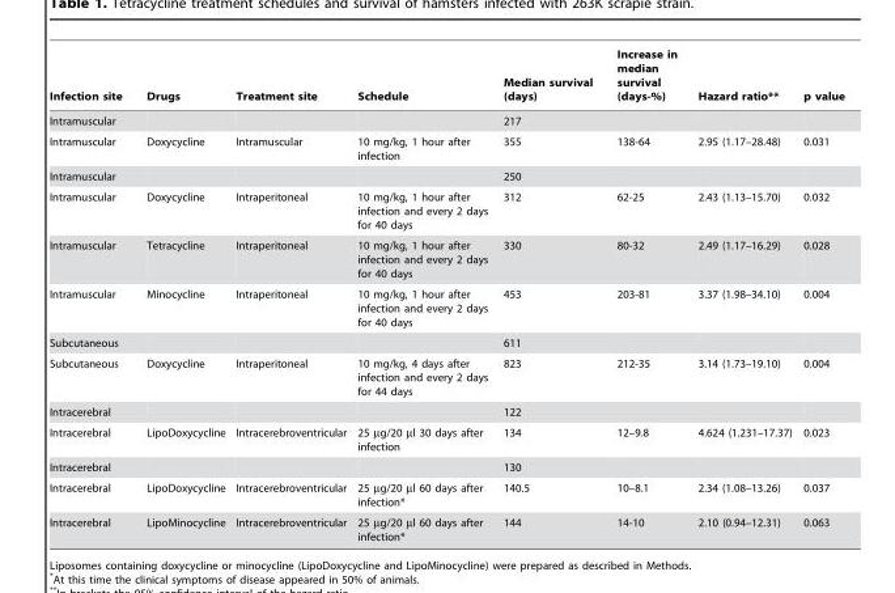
<table><thead><tr><td>Infection site</td><td>Drugs</td><td>Treatment site</td><td>Schedule</td><td>Median survival (days)</td><td>Increase in median survival (days-%)</td><td>Hazard ratio**</td><td>p value</td></tr></thead><tbody><tr><td>Intramuscular</td><td></td><td></td><td></td><td>217</td><td></td><td></td><td></td></tr><tr><td>Intramuscular</td><td>Doxycycline</td><td>Intramuscular</td><td>10 mg/kg, 1 hour after infection</td><td>355</td><td>138-64</td><td>2.95 (1.17–28.48)</td><td>0.031</td></tr><tr><td>Intramuscular</td><td></td><td></td><td></td><td>250</td><td></td><td></td><td></td></tr><tr><td>Intramuscular</td><td>Doxycycline</td><td>Intraperitoneal</td><td>10 mg/kg, 1 hour after infection and every 2 days for 40 days</td><td>312</td><td>62-25</td><td>2.43 (1.13–15.70)</td><td>0.032</td></tr><tr><td>Intramuscular</td><td>Tetracycline</td><td>Intraperitoneal</td><td>10 mg/kg, 1 hour after infection and every 2 days for 40 days</td><td>330</td><td>80-32</td><td>2.49 (1.17–16.29)</td><td>0.028</td></tr><tr><td>Intramuscular</td><td>Minocycline</td><td>Intraperitoneal</td><td>10 mg/kg, 1 hour after infection and every 2 days for 40 days</td><td>453</td><td>203-81</td><td>3.37 (1.98–34.10)</td><td>0.004</td></tr><tr><td>Subcutaneous</td><td></td><td></td><td></td><td>611</td><td></td><td></td><td></td></tr><tr><td>Subcutaneous</td><td>Doxycycline</td><td>Intraperitoneal</td><td>10 mg/kg, 4 days after infection and every 2 days for 44 days</td><td>823</td><td>212-35</td><td>3.14 (1.73–19.10)</td><td>0.004</td></tr><tr><td>Intracerebral</td><td></td><td></td><td></td><td>122</td><td></td><td></td><td></td></tr><tr><td>Intracerebral</td><td>LipoDoxycycline</td><td>Intracerebroventricular</td><td>25 µg/20 µl 30 days after infection</td><td>134</td><td>12–9.8</td><td>4.624 (1.231–17.37)</td><td>0.023</td></tr><tr><td>Intracerebral</td><td></td><td></td><td></td><td>130</td><td></td><td></td><td></td></tr><tr><td>Intracerebral</td><td>LipoDoxycycline</td><td>Intracerebroventricular</td><td>25 µg/20 µl 60 days after infection*</td><td>140.5</td><td>10–8.1</td><td>2.34 (1.08–13.26)</td><td>0.037</td></tr><tr><td>Intracerebral</td><td>LipoMinocycline</td><td>Intracerebroventricular</td><td>25 µg/20 µl 60 days after infection*</td><td>144</td><td>14-10</td><td>2.10 (0.94–12.31)</td><td>0.063</td></tr></tbody></table>